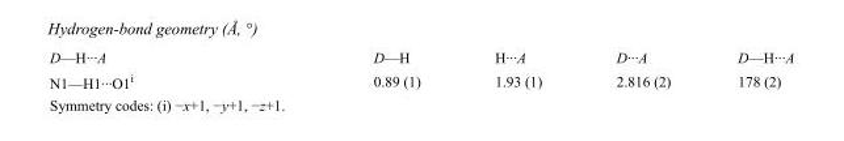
<table><tbody><tr><td>D—H···A</td><td>D—H</td><td>H···A</td><td>D···A</td><td>D—H···A</td></tr><tr><td>N1—H1···O1<sup>i</sup></td><td>0.89 (1)</td><td>1.93 (1)</td><td>2.816 (2)</td><td>178 (2)</td></tr></tbody></table>